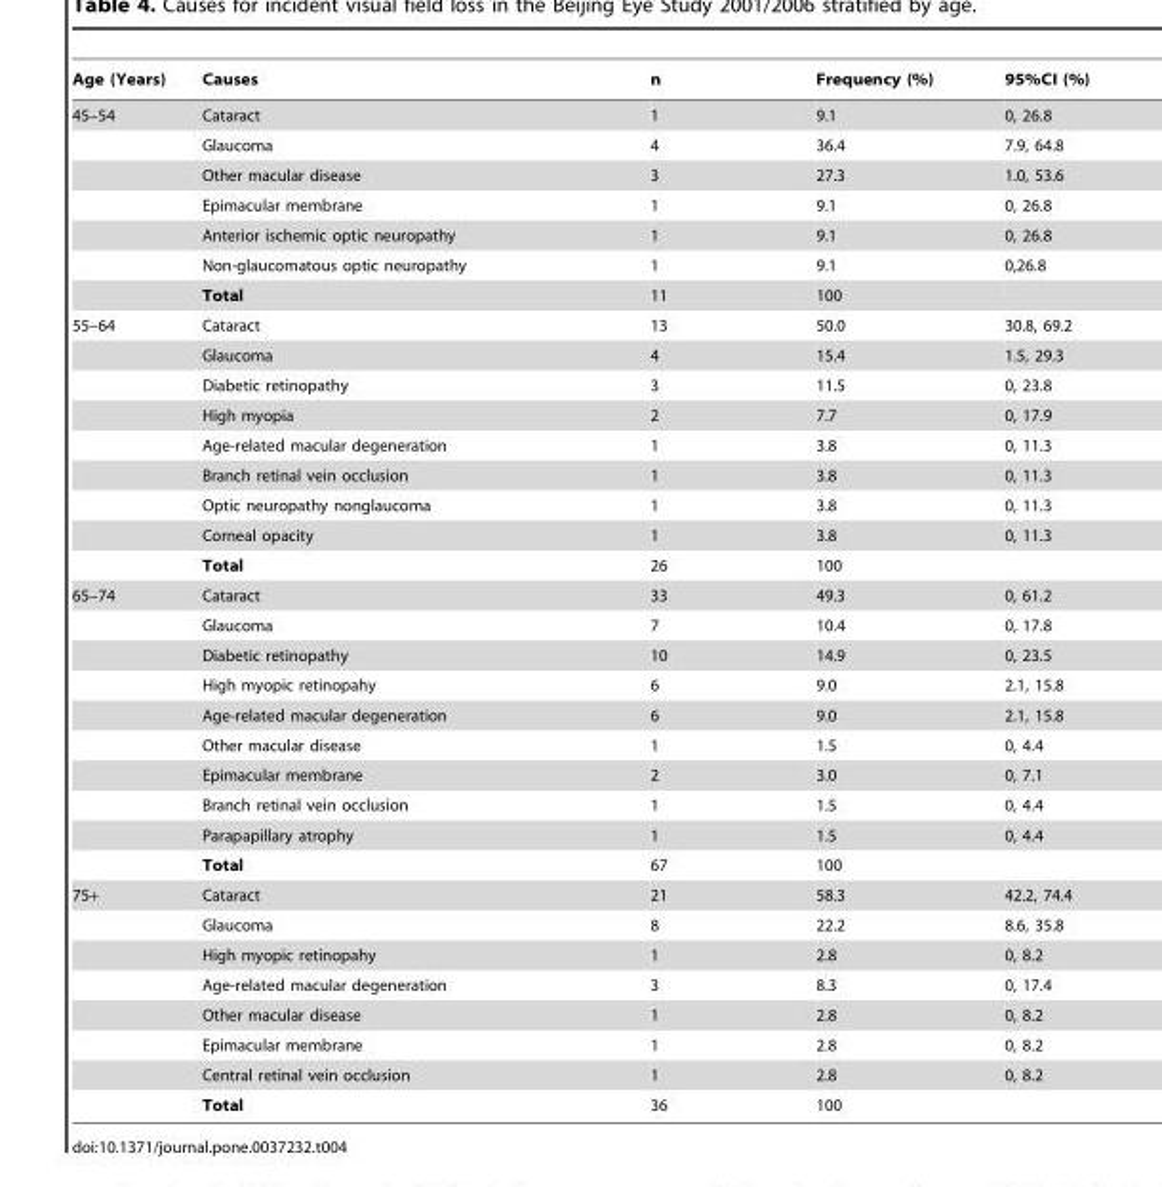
<table><thead><tr><td>Age (Years)</td><td>Causes</td><td>n</td><td>Frequency (%)</td><td>95%CI (%)</td></tr></thead><tbody><tr><td rowspan="7">45–54</td><td>Cataract</td><td>1</td><td>9.1</td><td>0, 26.8</td></tr><tr><td>Glaucoma</td><td>4</td><td>36.4</td><td>7.9, 64.8</td></tr><tr><td>Other macular disease</td><td>3</td><td>27.3</td><td>1.0, 53.6</td></tr><tr><td>Epimacular membrane</td><td>1</td><td>9.1</td><td>0, 26.8</td></tr><tr><td>Anterior ischemic optic neuropathy</td><td>1</td><td>9.1</td><td>0, 26.8</td></tr><tr><td>Non-glaucomatous optic neuropathy</td><td>1</td><td>9.1</td><td>0,26.8</td></tr><tr><td>Total</td><td>11</td><td>100</td><td></td></tr><tr><td rowspan="9">55–64</td><td>Cataract</td><td>13</td><td>50.0</td><td>30.8, 69.2</td></tr><tr><td>Glaucoma</td><td>4</td><td>15.4</td><td>1.5, 29.3</td></tr><tr><td>Diabetic retinopathy</td><td>3</td><td>11.5</td><td>0, 23.8</td></tr><tr><td>High myopia</td><td>2</td><td>7.7</td><td>0, 17.9</td></tr><tr><td>Age-related macular degeneration</td><td>1</td><td>3.8</td><td>0, 11.3</td></tr><tr><td>Branch retinal vein occlusion</td><td>1</td><td>3.8</td><td>0, 11.3</td></tr><tr><td>Optic neuropathy nonglaucoma</td><td>1</td><td>3.8</td><td>0, 11.3</td></tr><tr><td>Corneal opacity</td><td>1</td><td>3.8</td><td>0, 11.3</td></tr><tr><td>Total</td><td>26</td><td>100</td><td></td></tr><tr><td rowspan="10">65–74</td><td>Cataract</td><td>33</td><td>49.3</td><td>0, 61.2</td></tr><tr><td>Glaucoma</td><td>7</td><td>10.4</td><td>0, 17.8</td></tr><tr><td>Diabetic retinopathy</td><td>10</td><td>14.9</td><td>0, 23.5</td></tr><tr><td>High myopic retinopahy</td><td>6</td><td>9.0</td><td>2.1, 15.8</td></tr><tr><td>Age-related macular degeneration</td><td>6</td><td>9.0</td><td>2.1, 15.8</td></tr><tr><td>Other macular disease</td><td>1</td><td>1.5</td><td>0, 4.4</td></tr><tr><td>Epimacular membrane</td><td>2</td><td>3.0</td><td>0, 7.1</td></tr><tr><td>Branch retinal vein occlusion</td><td>1</td><td>1.5</td><td>0, 4.4</td></tr><tr><td>Parapapillary atrophy</td><td>1</td><td>1.5</td><td>0, 4.4</td></tr><tr><td>Total</td><td>67</td><td>100</td><td></td></tr><tr><td rowspan="8">75+</td><td>Cataract</td><td>21</td><td>58.3</td><td>42.2, 74.4</td></tr><tr><td>Glaucoma</td><td>8</td><td>22.2</td><td>8.6, 35.8</td></tr><tr><td>High myopic retinopahy</td><td>1</td><td>2.8</td><td>0, 8.2</td></tr><tr><td>Age-related macular degeneration</td><td>3</td><td>8.3</td><td>0, 17.4</td></tr><tr><td>Other macular disease</td><td>1</td><td>2.8</td><td>0, 8.2</td></tr><tr><td>Epimacular membrane</td><td>1</td><td>2.8</td><td>0, 8.2</td></tr><tr><td>Central retinal vein occlusion</td><td>1</td><td>2.8</td><td>0, 8.2</td></tr><tr><td>Total</td><td>36</td><td>100</td><td></td></tr></tbody></table>